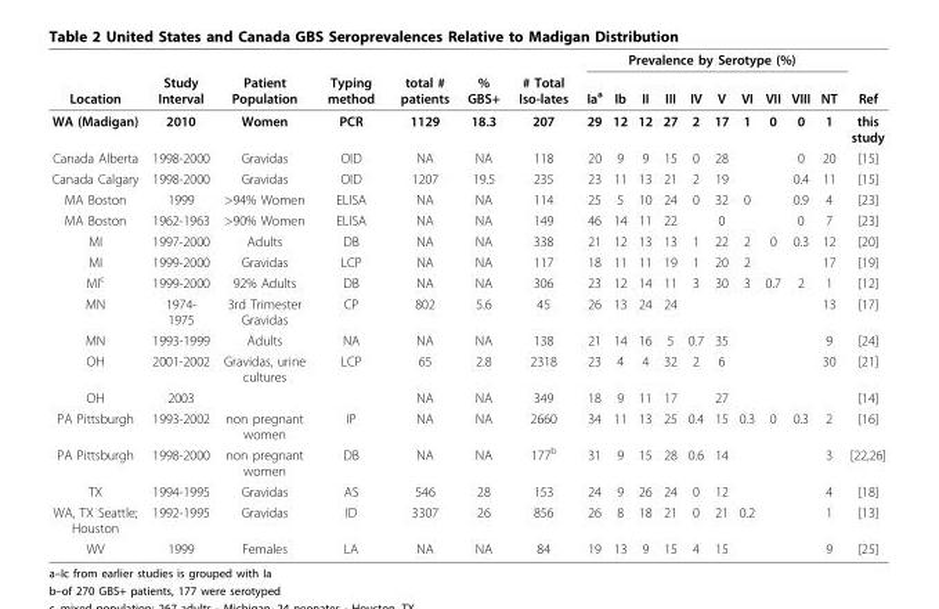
<table><thead><tr><td rowspan="2">Location</td><td rowspan="2">Study Interval</td><td rowspan="2">Patient Population</td><td rowspan="2">Typing method</td><td rowspan="2">total # patients</td><td rowspan="2">% GBS+</td><td rowspan="2"># Total Iso-lates</td><td colspan="10">Prevalence by Serotype (%)</td><td rowspan="2">Ref</td></tr><tr><td>Ia<sup>a</sup></td><td>Ib</td><td>II</td><td>III</td><td>IV</td><td>V</td><td>VI</td><td>VII</td><td>VIII</td><td>NT</td></tr></thead><tbody><tr><td>WA (Madigan)</td><td>2010</td><td>Women</td><td>PCR</td><td>1129</td><td>18.3</td><td>207</td><td>29</td><td>12</td><td>12</td><td>27</td><td>2</td><td>17</td><td>1</td><td>0</td><td>0</td><td>1</td><td>this study</td></tr><tr><td>Canada Alberta</td><td>1998-2000</td><td>Gravidas</td><td>OID</td><td>NA</td><td>NA</td><td>118</td><td>20</td><td>9</td><td>9</td><td>15</td><td>0</td><td>28</td><td></td><td></td><td>0</td><td>20</td><td>[15]</td></tr><tr><td>Canada Calgary</td><td>1998-2000</td><td>Gravidas</td><td>OID</td><td>1207</td><td>19.5</td><td>235</td><td>23</td><td>11</td><td>13</td><td>21</td><td>2</td><td>19</td><td></td><td></td><td>0.4</td><td>11</td><td>[15]</td></tr><tr><td>MA Boston</td><td>1999</td><td>&gt;94% Women</td><td>ELISA</td><td>NA</td><td>NA</td><td>114</td><td>25</td><td>5</td><td>10</td><td>24</td><td>0</td><td>32</td><td>0</td><td></td><td>0.9</td><td>4</td><td>[23]</td></tr><tr><td>MA Boston</td><td>1962-1963</td><td>&gt;90% Women</td><td>ELISA</td><td>NA</td><td>NA</td><td>149</td><td>46</td><td>14</td><td>11</td><td>22</td><td></td><td>0</td><td></td><td></td><td>0</td><td>7</td><td>[23]</td></tr><tr><td>MI</td><td>1997-2000</td><td>Adults</td><td>DB</td><td>NA</td><td>NA</td><td>338</td><td>21</td><td>12</td><td>13</td><td>13</td><td>1</td><td>22</td><td>2</td><td>0</td><td>0.3</td><td>12</td><td>[20]</td></tr><tr><td>MI</td><td>1999-2000</td><td>Gravidas</td><td>LCP</td><td>NA</td><td>NA</td><td>117</td><td>18</td><td>11</td><td>11</td><td>19</td><td>1</td><td>20</td><td>2</td><td></td><td></td><td>17</td><td>[19]</td></tr><tr><td>MI<sup>c</sup></td><td>1999-2000</td><td>92% Adults</td><td>DB</td><td>NA</td><td>NA</td><td>306</td><td>23</td><td>12</td><td>14</td><td>11</td><td>3</td><td>30</td><td>3</td><td>0.7</td><td>2</td><td>1</td><td>[12]</td></tr><tr><td>MN</td><td>1974- 1975</td><td>3rd Trimester Gravidas</td><td>CP</td><td>802</td><td>5.6</td><td>45</td><td>26</td><td>13</td><td>24</td><td>24</td><td></td><td></td><td></td><td></td><td></td><td>13</td><td>[17]</td></tr><tr><td>MN</td><td>1993-1999</td><td>Adults</td><td>NA</td><td>NA</td><td>NA</td><td>138</td><td>21</td><td>14</td><td>16</td><td>5</td><td>0.7</td><td>35</td><td></td><td></td><td></td><td>9</td><td>[24]</td></tr><tr><td>OH</td><td>2001-2002</td><td>Gravidas, urine cultures</td><td>LCP</td><td>65</td><td>2.8</td><td>2318</td><td>23</td><td>4</td><td>4</td><td>32</td><td>2</td><td>6</td><td></td><td></td><td></td><td>30</td><td>[21]</td></tr><tr><td>OH</td><td>2003</td><td></td><td></td><td>NA</td><td>NA</td><td>349</td><td>18</td><td>9</td><td>11</td><td>17</td><td></td><td>27</td><td></td><td></td><td></td><td></td><td>[14]</td></tr><tr><td>PA Pittsburgh</td><td>1993-2002</td><td>non pregnant women</td><td>IP</td><td>NA</td><td>NA</td><td>2660</td><td>34</td><td>11</td><td>13</td><td>25</td><td>0.4</td><td>15</td><td>0.3</td><td>0</td><td>0.3</td><td>2</td><td>[16]</td></tr><tr><td>PA Pittsburgh</td><td>1998-2000</td><td>non pregnant women</td><td>DB</td><td>NA</td><td>NA</td><td>177<sup>b</sup></td><td>31</td><td>9</td><td>15</td><td>28</td><td>0.6</td><td>14</td><td></td><td></td><td></td><td>3</td><td>[22,26]</td></tr><tr><td>TX</td><td>1994-1995</td><td>Gravidas</td><td>AS</td><td>546</td><td>28</td><td>153</td><td>24</td><td>9</td><td>26</td><td>24</td><td>0</td><td>12</td><td></td><td></td><td></td><td>4</td><td>[18]</td></tr><tr><td>WA, TX Seattle; Houston</td><td>1992-1995</td><td>Gravidas</td><td>ID</td><td>3307</td><td>26</td><td>856</td><td>26</td><td>8</td><td>18</td><td>21</td><td>0</td><td>21</td><td>0.2</td><td></td><td></td><td>1</td><td>[13]</td></tr><tr><td>WV</td><td>1999</td><td>Females</td><td>LA</td><td>NA</td><td>NA</td><td>84</td><td>19</td><td>13</td><td>9</td><td>15</td><td>4</td><td>15</td><td></td><td></td><td></td><td>9</td><td>[25]</td></tr></tbody></table>